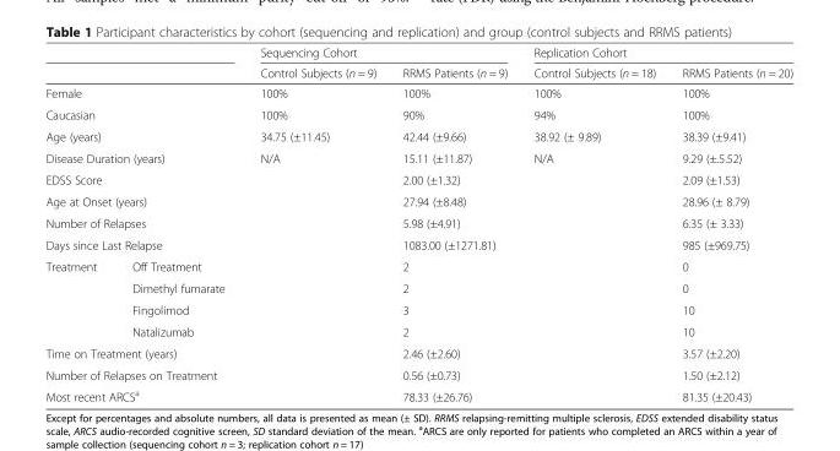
<table><thead><tr><td rowspan="2"></td><td rowspan="2"></td><td colspan="2">Sequencing Cohort</td><td colspan="2">Replication Cohort</td></tr><tr><td>Control Subjects (n = 9)</td><td>RRMS Patients (n = 9)</td><td>Control Subjects (n = 18)</td><td>RRMS Patients (n = 20)</td></tr></thead><tbody><tr><td>Female</td><td></td><td>100%</td><td>100%</td><td>100%</td><td>100%</td></tr><tr><td colspan="2">Caucasian</td><td>100%</td><td>90%</td><td>94%</td><td>100%</td></tr><tr><td colspan="2">Age (years)</td><td>34.75 (±11.45)</td><td>42.44 (±9.66)</td><td>38.92 (± 9.89)</td><td>38.39 (±9.41)</td></tr><tr><td colspan="2">Disease Duration (years)</td><td rowspan="12">N/A</td><td>15.11 (±11.87)</td><td rowspan="12">N/A</td><td>9.29 (±.5.52)</td></tr><tr><td colspan="2">EDSS Score</td><td>2.00 (±1.32)</td><td>2.09 (±1.53)</td></tr><tr><td colspan="2">Age at Onset (years)</td><td>27.94 (±8.48)</td><td>28.96 (± 8.79)</td></tr><tr><td colspan="2">Number of Relapses</td><td>5.98 (±4.91)</td><td>6.35 (± 3.33)</td></tr><tr><td colspan="2">Days since Last Relapse</td><td>1083.00 (±1271.81)</td><td>985 (±969.75)</td></tr><tr><td rowspan="4">Treatment</td><td>Off Treatment</td><td>2</td><td>0</td></tr><tr><td>Dimethyl fumarate</td><td>2</td><td>0</td></tr><tr><td>Fingolimod</td><td>3</td><td>10</td></tr><tr><td>Natalizumab</td><td>2</td><td>10</td></tr><tr><td colspan="2">Time on Treatment (years)</td><td>2.46 (±2.60)</td><td>3.57 (±2.20)</td></tr><tr><td colspan="2">Number of Relapses on Treatment</td><td>0.56 (±0.73)</td><td>1.50 (±2.12)</td></tr><tr><td colspan="2">Most recent ARCS<sup>a</sup></td><td>78.33 (±26.76)</td><td>81.35 (±20.43)</td></tr></tbody></table>